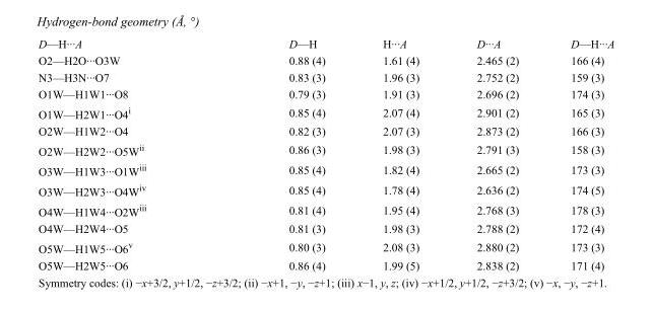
<table><tbody><tr><td>D—H···A</td><td>D—H</td><td>H···A</td><td>D···A</td><td>D—H···A</td></tr><tr><td>O2—H2O···O3W</td><td>0.88 (4)</td><td>1.61 (4)</td><td>2.465 (2)</td><td>166 (4)</td></tr><tr><td>N3—H3N···O7</td><td>0.83 (3)</td><td>1.96 (3)</td><td>2.752 (2)</td><td>159 (3)</td></tr><tr><td>O1W—H1W1···O8</td><td>0.79 (3)</td><td>1.91 (3)</td><td>2.696 (2)</td><td>174 (3)</td></tr><tr><td>O1W—H2W1···O4<sup>i</sup></td><td>0.85 (4)</td><td>2.07 (4)</td><td>2.901 (2)</td><td>165 (3)</td></tr><tr><td>O2W—H1W2···O4</td><td>0.82 (3)</td><td>2.07 (3)</td><td>2.873 (2)</td><td>166 (3)</td></tr><tr><td>O2W—H2W2···O5W<sup>ii</sup></td><td>0.86 (3)</td><td>1.98 (3)</td><td>2.791 (3)</td><td>158 (3)</td></tr><tr><td>O3W—H1W3···O1W<sup>iii</sup></td><td>0.85 (4)</td><td>1.82 (4)</td><td>2.665 (2)</td><td>173 (3)</td></tr><tr><td>O3W—H2W3···O4W<sup>iv</sup></td><td>0.85 (4)</td><td>1.78 (4)</td><td>2.636 (2)</td><td>174 (5)</td></tr><tr><td>O4W—H1W4···O2W<sup>iii</sup></td><td>0.81 (4)</td><td>1.95 (4)</td><td>2.768 (3)</td><td>178 (3)</td></tr><tr><td>O4W—H2W4···O5</td><td>0.81 (3)</td><td>1.98 (3)</td><td>2.788 (2)</td><td>172 (4)</td></tr><tr><td>O5W—H1W5···O6<sup>v</sup></td><td>0.80 (3)</td><td>2.08 (3)</td><td>2.880 (2)</td><td>173 (3)</td></tr><tr><td>O5W—H2W5···O6</td><td>0.86 (4)</td><td>1.99 (5)</td><td>2.838 (2)</td><td>171 (4)</td></tr></tbody></table>